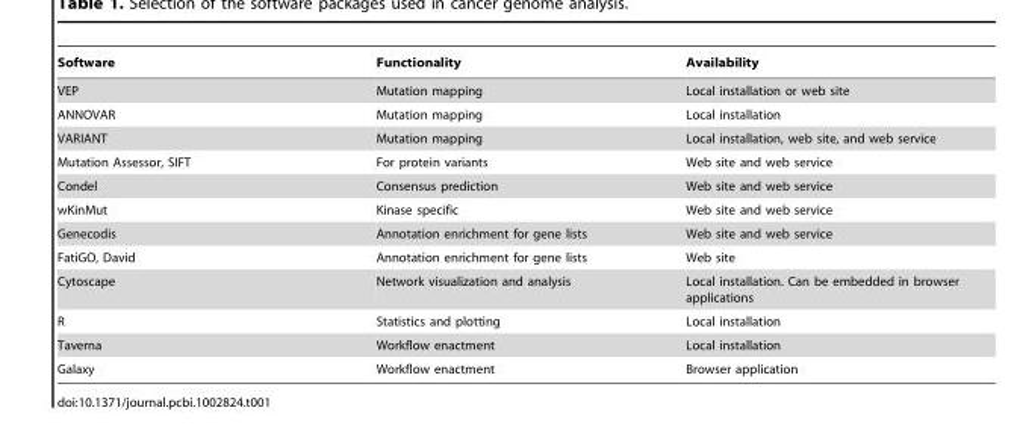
<table><thead><tr><td>Software</td><td>Functionality</td><td>Availability</td></tr></thead><tbody><tr><td>VEP</td><td>Mutation mapping</td><td>Local installation or web site</td></tr><tr><td>ANNOVAR</td><td>Mutation mapping</td><td>Local installation</td></tr><tr><td>VARIANT</td><td>Mutation mapping</td><td>Local installation, web site, and web service</td></tr><tr><td>Mutation Assessor, SIFT</td><td>For protein variants</td><td>Web site and web service</td></tr><tr><td>Condel</td><td>Consensus prediction</td><td>Web site and web service</td></tr><tr><td>wKinMut</td><td>Kinase specific</td><td>Web site and web service</td></tr><tr><td>Genecodis</td><td>Annotation enrichment for gene lists</td><td>Web site and web service</td></tr><tr><td>FatiGO, David</td><td>Annotation enrichment for gene lists</td><td>Web site</td></tr><tr><td>Cytoscape</td><td>Network visualization and analysis</td><td>Local installation. Can be embedded in browser applications</td></tr><tr><td>R</td><td>Statistics and plotting</td><td>Local installation</td></tr><tr><td>Taverna</td><td>Workflow enactment</td><td>Local installation</td></tr><tr><td>Galaxy</td><td>Workflow enactment</td><td>Browser application</td></tr></tbody></table>